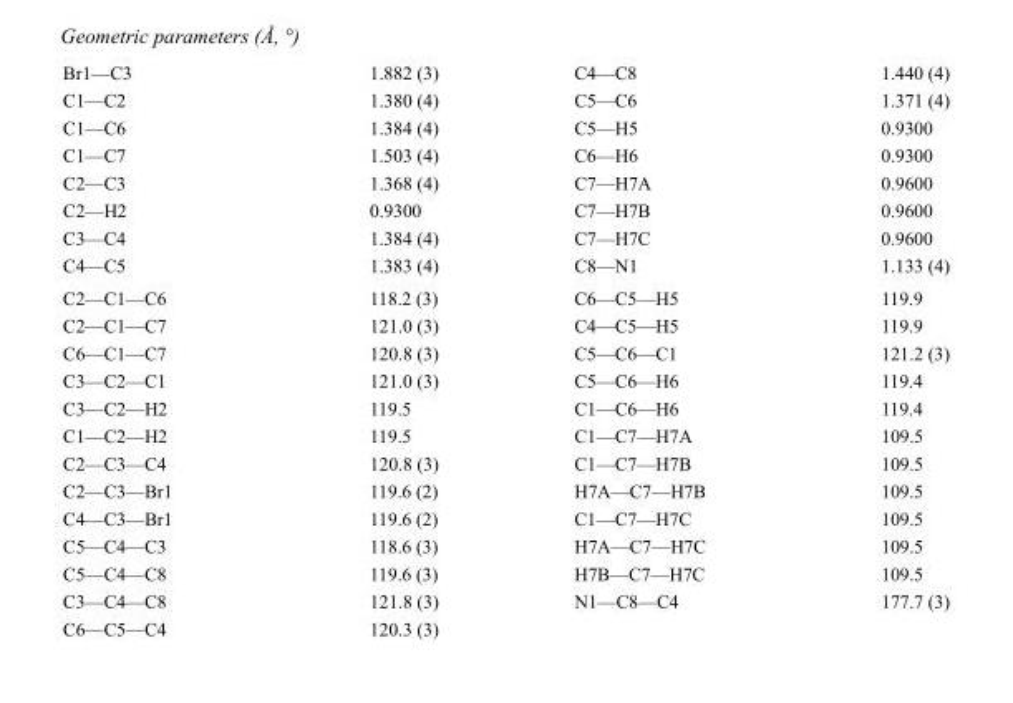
<table><tbody><tr><td>Br1—C3</td><td>1.882 (3)</td><td>C4—C8</td><td>1.440 (4)</td></tr><tr><td>C1—C2</td><td>1.380 (4)</td><td>C5—C6</td><td>1.371 (4)</td></tr><tr><td>C1—C6</td><td>1.384 (4)</td><td>C5—H5</td><td>0.9300</td></tr><tr><td>C1—C7</td><td>1.503 (4)</td><td>C6—H6</td><td>0.9300</td></tr><tr><td>C2—C3</td><td>1.368 (4)</td><td>C7—H7A</td><td>0.9600</td></tr><tr><td>C2—H2</td><td>0.9300</td><td>C7—H7B</td><td>0.9600</td></tr><tr><td>C3—C4</td><td>1.384 (4)</td><td>C7—H7C</td><td>0.9600</td></tr><tr><td>C4—C5</td><td>1.383 (4)</td><td>C8—N1</td><td>1.133 (4)</td></tr><tr><td>C2—C1—C6</td><td>118.2 (3)</td><td>C6—C5—H5</td><td>119.9</td></tr><tr><td>C2—C1—C7</td><td>121.0 (3)</td><td>C4—C5—H5</td><td>119.9</td></tr><tr><td>C6—C1—C7</td><td>120.8 (3)</td><td>C5—C6—C1</td><td>121.2 (3)</td></tr><tr><td>C3—C2—C1</td><td>121.0 (3)</td><td>C5—C6—H6</td><td>119.4</td></tr><tr><td>C3—C2—H2</td><td>119.5</td><td>C1—C6—H6</td><td>119.4</td></tr><tr><td>C1—C2—H2</td><td>119.5</td><td>C1—C7—H7A</td><td>109.5</td></tr><tr><td>C2—C3—C4</td><td>120.8 (3)</td><td>C1—C7—H7B</td><td>109.5</td></tr><tr><td>C2—C3—Br1</td><td>119.6 (2)</td><td>H7A—C7—H7B</td><td>109.5</td></tr><tr><td>C4—C3—Br1</td><td>119.6 (2)</td><td>C1—C7—H7C</td><td>109.5</td></tr><tr><td>C5—C4—C3</td><td>118.6 (3)</td><td>H7A—C7—H7C</td><td>109.5</td></tr><tr><td>C5—C4—C8</td><td>119.6 (3)</td><td>H7B—C7—H7C</td><td>109.5</td></tr><tr><td>C3—C4—C8</td><td>121.8 (3)</td><td>N1—C8—C4</td><td>177.7 (3)</td></tr><tr><td>C6—C5—C4</td><td>120.3 (3)</td><td></td><td></td></tr></tbody></table>